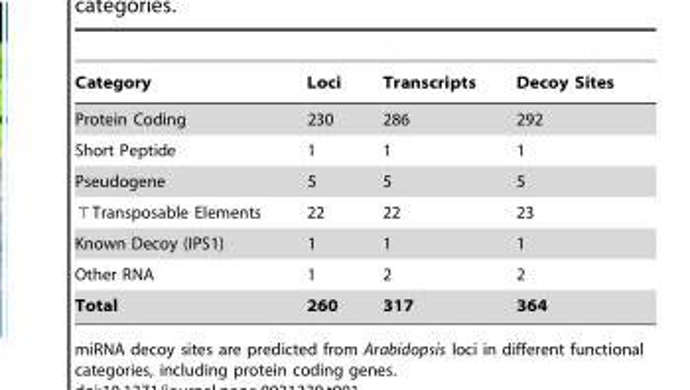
<table><thead><tr><td>Category</td><td>Loci</td><td>Transcripts</td><td>Decoy Sites</td></tr></thead><tbody><tr><td>Protein Coding</td><td>230</td><td>286</td><td>292</td></tr><tr><td>Short Peptide</td><td>1</td><td>1</td><td>1</td></tr><tr><td>Pseudogene</td><td>5</td><td>5</td><td>5</td></tr><tr><td>⊤Transposable Elements</td><td>22</td><td>22</td><td>23</td></tr><tr><td>Known Decoy (IPS1)</td><td>1</td><td>1</td><td>1</td></tr><tr><td>Other RNA</td><td>1</td><td>2</td><td>2</td></tr><tr><td>Total</td><td>260</td><td>317</td><td>364</td></tr></tbody></table>